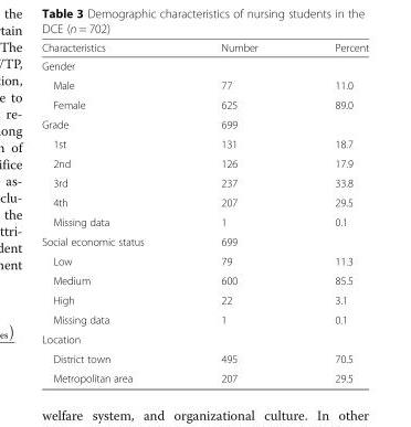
<table><thead><tr><td>Characteristics</td><td>Number</td><td>Percent</td></tr></thead><tbody><tr><td colspan="3">Gender</td></tr><tr><td>Male</td><td>77</td><td>11.0</td></tr><tr><td>Female</td><td>625</td><td>89.0</td></tr><tr><td>Grade</td><td>699</td><td></td></tr><tr><td>1st</td><td>131</td><td>18.7</td></tr><tr><td>2nd</td><td>126</td><td>17.9</td></tr><tr><td>3rd</td><td>237</td><td>33.8</td></tr><tr><td>4th</td><td>207</td><td>29.5</td></tr><tr><td>Missing data</td><td>1</td><td>0.1</td></tr><tr><td>Social economic status</td><td>699</td><td></td></tr><tr><td>Low</td><td>79</td><td>11.3</td></tr><tr><td>Medium</td><td>600</td><td>85.5</td></tr><tr><td>High</td><td>22</td><td>3.1</td></tr><tr><td>Missing data</td><td>1</td><td>0.1</td></tr><tr><td colspan="3">Location</td></tr><tr><td>District town</td><td>495</td><td>70.5</td></tr><tr><td>Metropolitan area</td><td>207</td><td>29.5</td></tr></tbody></table>